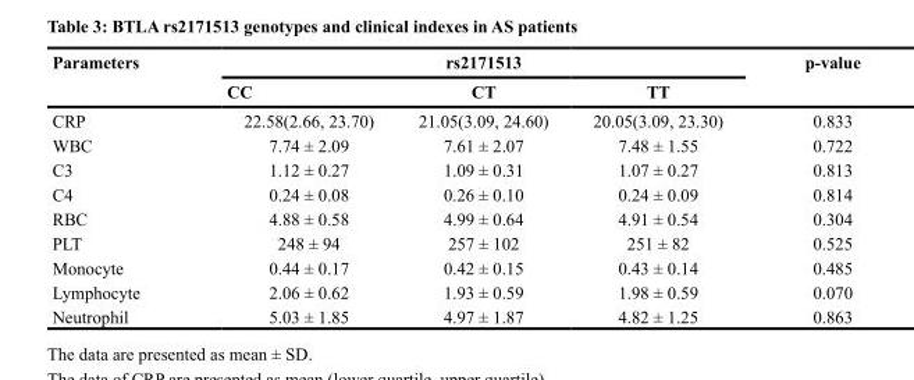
<table><thead><tr><td rowspan="2">Parameters</td><td colspan="3">rs2171513</td><td rowspan="2">p-value</td></tr><tr><td>CC</td><td>CT</td><td>TT</td></tr></thead><tbody><tr><td>CRP</td><td>22.58(2.66, 23.70)</td><td>21.05(3.09, 24.60)</td><td>20.05(3.09, 23.30)</td><td>0.833</td></tr><tr><td>WBC</td><td>7.74 ± 2.09</td><td>7.61 ± 2.07</td><td>7.48 ± 1.55</td><td>0.722</td></tr><tr><td>C3</td><td>1.12 ± 0.27</td><td>1.09 ± 0.31</td><td>1.07 ± 0.27</td><td>0.813</td></tr><tr><td>C4</td><td>0.24 ± 0.08</td><td>0.26 ± 0.10</td><td>0.24 ± 0.09</td><td>0.814</td></tr><tr><td>RBC</td><td>4.88 ± 0.58</td><td>4.99 ± 0.64</td><td>4.91 ± 0.54</td><td>0.304</td></tr><tr><td>PLT</td><td>248 ± 94</td><td>257 ± 102</td><td>251 ± 82</td><td>0.525</td></tr><tr><td>Monocyte</td><td>0.44 ± 0.17</td><td>0.42 ± 0.15</td><td>0.43 ± 0.14</td><td>0.485</td></tr><tr><td>Lymphocyte</td><td>2.06 ± 0.62</td><td>1.93 ± 0.59</td><td>1.98 ± 0.59</td><td>0.070</td></tr><tr><td>Neutrophil</td><td>5.03 ± 1.85</td><td>4.97 ± 1.87</td><td>4.82 ± 1.25</td><td>0.863</td></tr></tbody></table>